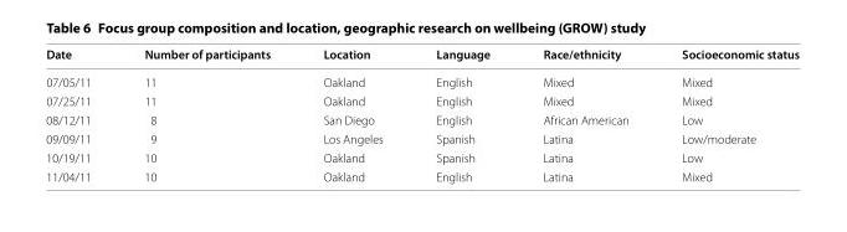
<table><thead><tr><td>Date</td><td>Number of participants</td><td>Location</td><td>Language</td><td>Race/ethnicity</td><td>Socioeconomic status</td></tr></thead><tbody><tr><td>07/05/11</td><td>11</td><td>Oakland</td><td>English</td><td>Mixed</td><td>Mixed</td></tr><tr><td>07/25/11</td><td>11</td><td>Oakland</td><td>English</td><td>Mixed</td><td>Mixed</td></tr><tr><td>08/12/11</td><td>8</td><td>San Diego</td><td>English</td><td>African American</td><td>Low</td></tr><tr><td>09/09/11</td><td>9</td><td>Los Angeles</td><td>Spanish</td><td>Latina</td><td>Low/moderate</td></tr><tr><td>10/19/11</td><td>10</td><td>Oakland</td><td>Spanish</td><td>Latina</td><td>Low</td></tr><tr><td>11/04/11</td><td>10</td><td>Oakland</td><td>English</td><td>Latina</td><td>Mixed</td></tr></tbody></table>